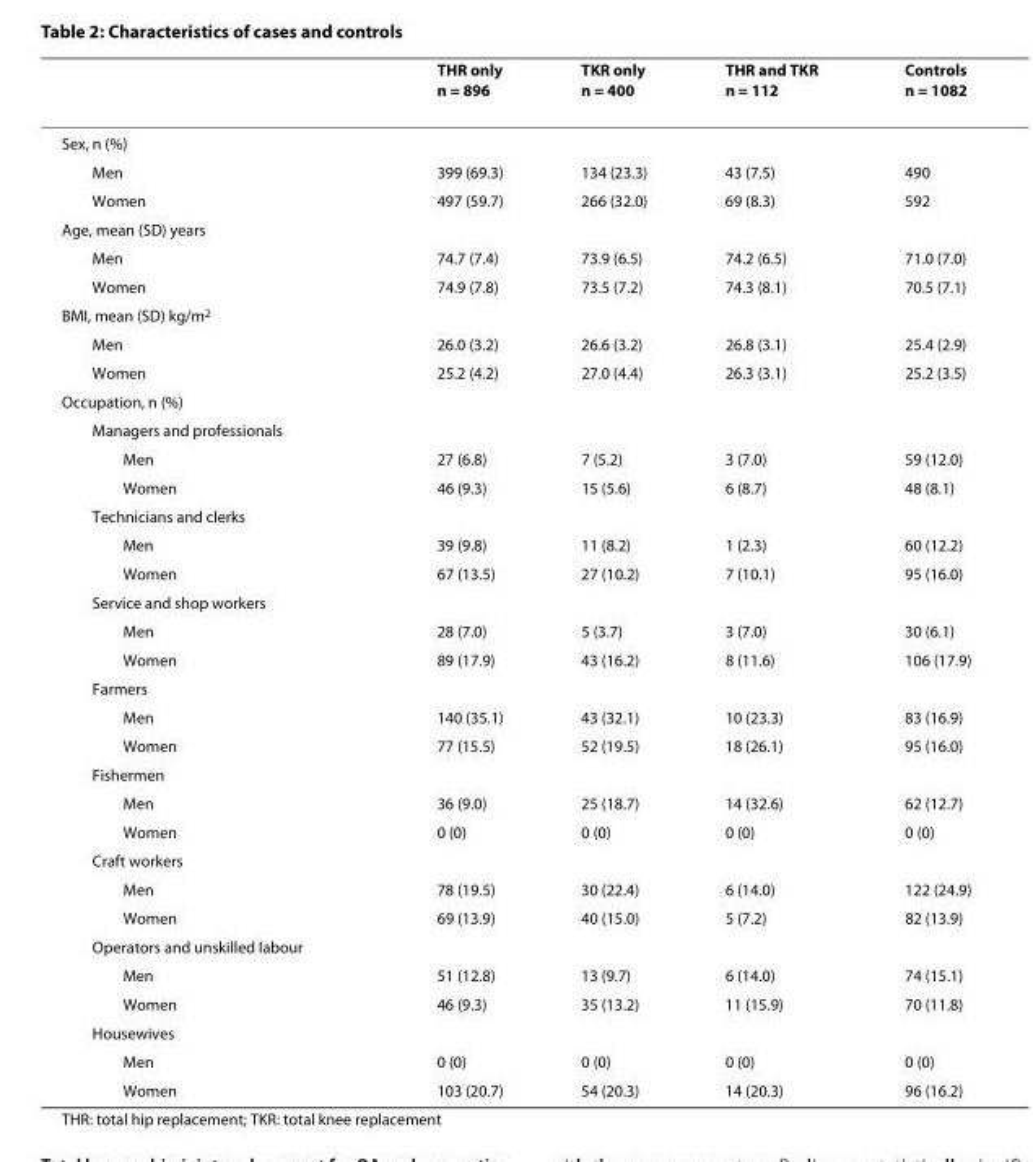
<table><thead><tr><td></td><td>THR only n = 896</td><td>TKR only n = 400</td><td>THR and TKR n = 112</td><td>Controls n = 1082</td></tr></thead><tbody><tr><td colspan="5">Sex, n (%)</td></tr><tr><td>Men</td><td>399 (69.3)</td><td>134 (23.3)</td><td>43 (7.5)</td><td>490</td></tr><tr><td>Women</td><td>497 (59.7)</td><td>266 (32.0)</td><td>69 (8.3)</td><td>592</td></tr><tr><td colspan="5">Age, mean (SD) years</td></tr><tr><td>Men</td><td>74.7 (7.4)</td><td>73.9 (6.5)</td><td>74.2 (6.5)</td><td>71.0 (7.0)</td></tr><tr><td>Women</td><td>74.9 (7.8)</td><td>73.5 (7.2)</td><td>74.3 (8.1)</td><td>70.5 (7.1)</td></tr><tr><td colspan="5">BMI, mean (SD) kg/m<sup>2</sup></td></tr><tr><td>Men</td><td>26.0 (3.2)</td><td>26.6 (3.2)</td><td>26.8 (3.1)</td><td>25.4 (2.9)</td></tr><tr><td>Women</td><td>25.2 (4.2)</td><td>27.0 (4.4)</td><td>26.3 (3.1)</td><td>25.2 (3.5)</td></tr><tr><td colspan="5">Occupation, n (%)</td></tr><tr><td colspan="5">Managers and professionals</td></tr><tr><td>Men</td><td>27 (6.8)</td><td>7 (5.2)</td><td>3 (7.0)</td><td>59 (12.0)</td></tr><tr><td>Women</td><td>46 (9.3)</td><td>15 (5.6)</td><td>6 (8.7)</td><td>48 (8.1)</td></tr><tr><td colspan="5">Technicians and clerks</td></tr><tr><td>Men</td><td>39 (9.8)</td><td>11 (8.2)</td><td>1 (2.3)</td><td>60 (12.2)</td></tr><tr><td>Women</td><td>67 (13.5)</td><td>27 (10.2)</td><td>7 (10.1)</td><td>95 (16.0)</td></tr><tr><td colspan="5">Service and shop workers</td></tr><tr><td>Men</td><td>28 (7.0)</td><td>5 (3.7)</td><td>3 (7.0)</td><td>30 (6.1)</td></tr><tr><td>Women</td><td>89 (17.9)</td><td>43 (16.2)</td><td>8 (11.6)</td><td>106 (17.9)</td></tr><tr><td colspan="5">Farmers</td></tr><tr><td>Men</td><td>140 (35.1)</td><td>43 (32.1)</td><td>10 (23.3)</td><td>83 (16.9)</td></tr><tr><td>Women</td><td>77 (15.5)</td><td>52 (19.5)</td><td>18 (26.1)</td><td>95 (16.0)</td></tr><tr><td colspan="5">Fishermen</td></tr><tr><td>Men</td><td>36 (9.0)</td><td>25 (18.7)</td><td>14 (32.6)</td><td>62 (12.7)</td></tr><tr><td>Women</td><td>0 (0)</td><td>0 (0)</td><td>0 (0)</td><td>0 (0)</td></tr><tr><td colspan="5">Craft workers</td></tr><tr><td>Men</td><td>78 (19.5)</td><td>30 (22.4)</td><td>6 (14.0)</td><td>122 (24.9)</td></tr><tr><td>Women</td><td>69 (13.9)</td><td>40 (15.0)</td><td>5 (7.2)</td><td>82 (13.9)</td></tr><tr><td colspan="5">Operators and unskilled labour</td></tr><tr><td>Men</td><td>51 (12.8)</td><td>13 (9.7)</td><td>6 (14.0)</td><td>74 (15.1)</td></tr><tr><td>Women</td><td>46 (9.3)</td><td>35 (13.2)</td><td>11 (15.9)</td><td>70 (11.8)</td></tr><tr><td colspan="5">Housewives</td></tr><tr><td>Men</td><td>0 (0)</td><td>0 (0)</td><td>0 (0)</td><td>0 (0)</td></tr><tr><td>Women</td><td>103 (20.7)</td><td>54 (20.3)</td><td>14 (20.3)</td><td>96 (16.2)</td></tr></tbody></table>